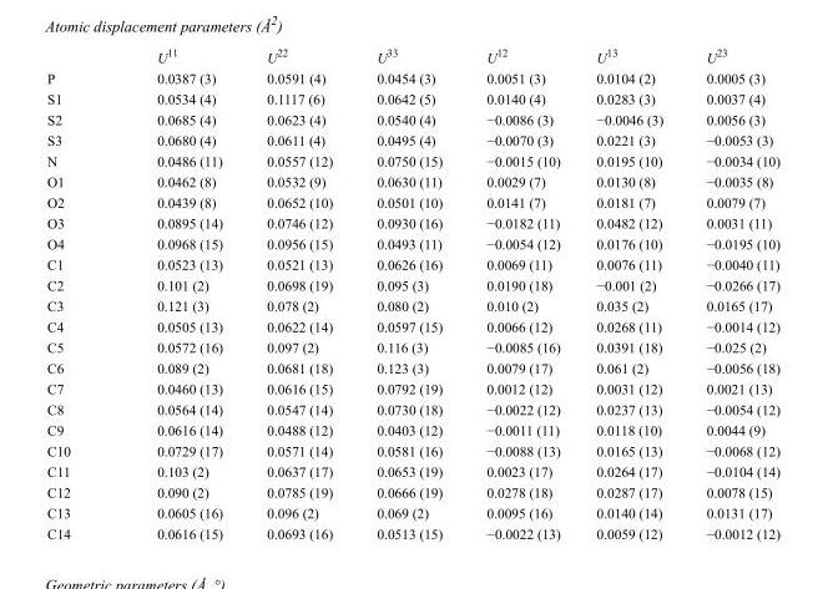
<table><thead><tr><td></td><td>U<sup>11</sup></td><td>U<sup>22</sup></td><td>U<sup>33</sup></td><td>U<sup>12</sup></td><td>U<sup>13</sup></td><td>U<sup>23</sup></td></tr></thead><tbody><tr><td>P</td><td>0.0387 (3)</td><td>0.0591 (4)</td><td>0.0454 (3)</td><td>0.0051 (3)</td><td>0.0104 (2)</td><td>0.0005 (3)</td></tr><tr><td>S1</td><td>0.0534 (4)</td><td>0.1117 (6)</td><td>0.0642 (5)</td><td>0.0140 (4)</td><td>0.0283 (3)</td><td>0.0037 (4)</td></tr><tr><td>S2</td><td>0.0685 (4)</td><td>0.0623 (4)</td><td>0.0540 (4)</td><td>−0.0086 (3)</td><td>−0.0046 (3)</td><td>0.0056 (3)</td></tr><tr><td>S3</td><td>0.0680 (4)</td><td>0.0611 (4)</td><td>0.0495 (4)</td><td>−0.0070 (3)</td><td>0.0221 (3)</td><td>−0.0053 (3)</td></tr><tr><td>N</td><td>0.0486 (11)</td><td>0.0557 (12)</td><td>0.0750 (15)</td><td>−0.0015 (10)</td><td>0.0195 (10)</td><td>−0.0034 (10)</td></tr><tr><td>O1</td><td>0.0462 (8)</td><td>0.0532 (9)</td><td>0.0630 (11)</td><td>0.0029 (7)</td><td>0.0130 (8)</td><td>−0.0035 (8)</td></tr><tr><td>O2</td><td>0.0439 (8)</td><td>0.0652 (10)</td><td>0.0501 (10)</td><td>0.0141 (7)</td><td>0.0181 (7)</td><td>0.0079 (7)</td></tr><tr><td>O3</td><td>0.0895 (14)</td><td>0.0746 (12)</td><td>0.0930 (16)</td><td>−0.0182 (11)</td><td>0.0482 (12)</td><td>0.0031 (11)</td></tr><tr><td>O4</td><td>0.0968 (15)</td><td>0.0956 (15)</td><td>0.0493 (11)</td><td>−0.0054 (12)</td><td>0.0176 (10)</td><td>−0.0195 (10)</td></tr><tr><td>C1</td><td>0.0523 (13)</td><td>0.0521 (13)</td><td>0.0626 (16)</td><td>0.0069 (11)</td><td>0.0076 (11)</td><td>−0.0040 (11)</td></tr><tr><td>C2</td><td>0.101 (2)</td><td>0.0698 (19)</td><td>0.095 (3)</td><td>0.0190 (18)</td><td>−0.001 (2)</td><td>−0.0266 (17)</td></tr><tr><td>C3</td><td>0.121 (3)</td><td>0.078 (2)</td><td>0.080 (2)</td><td>0.010 (2)</td><td>0.035 (2)</td><td>0.0165 (17)</td></tr><tr><td>C4</td><td>0.0505 (13)</td><td>0.0622 (14)</td><td>0.0597 (15)</td><td>0.0066 (12)</td><td>0.0268 (11)</td><td>−0.0014 (12)</td></tr><tr><td>C5</td><td>0.0572 (16)</td><td>0.097 (2)</td><td>0.116 (3)</td><td>−0.0085 (16)</td><td>0.0391 (18)</td><td>−0.025 (2)</td></tr><tr><td>C6</td><td>0.089 (2)</td><td>0.0681 (18)</td><td>0.123 (3)</td><td>0.0079 (17)</td><td>0.061 (2)</td><td>−0.0056 (18)</td></tr><tr><td>C7</td><td>0.0460 (13)</td><td>0.0616 (15)</td><td>0.0792 (19)</td><td>0.0012 (12)</td><td>0.0031 (12)</td><td>0.0021 (13)</td></tr><tr><td>C8</td><td>0.0564 (14)</td><td>0.0547 (14)</td><td>0.0730 (18)</td><td>−0.0022 (12)</td><td>0.0237 (13)</td><td>−0.0054 (12)</td></tr><tr><td>C9</td><td>0.0616 (14)</td><td>0.0488 (12)</td><td>0.0403 (12)</td><td>−0.0011 (11)</td><td>0.0118 (10)</td><td>0.0044 (9)</td></tr><tr><td>C10</td><td>0.0729 (17)</td><td>0.0571 (14)</td><td>0.0581 (16)</td><td>−0.0088 (13)</td><td>0.0165 (13)</td><td>−0.0068 (12)</td></tr><tr><td>C11</td><td>0.103 (2)</td><td>0.0637 (17)</td><td>0.0653 (19)</td><td>0.0023 (17)</td><td>0.0264 (17)</td><td>−0.0104 (14)</td></tr><tr><td>C12</td><td>0.090 (2)</td><td>0.0785 (19)</td><td>0.0666 (19)</td><td>0.0278 (18)</td><td>0.0287 (17)</td><td>0.0078 (15)</td></tr><tr><td>C13</td><td>0.0605 (16)</td><td>0.096 (2)</td><td>0.069 (2)</td><td>0.0095 (16)</td><td>0.0140 (14)</td><td>0.0131 (17)</td></tr><tr><td>C14</td><td>0.0616 (15)</td><td>0.0693 (16)</td><td>0.0513 (15)</td><td>−0.0022 (13)</td><td>0.0059 (12)</td><td>−0.0012 (12)</td></tr></tbody></table>